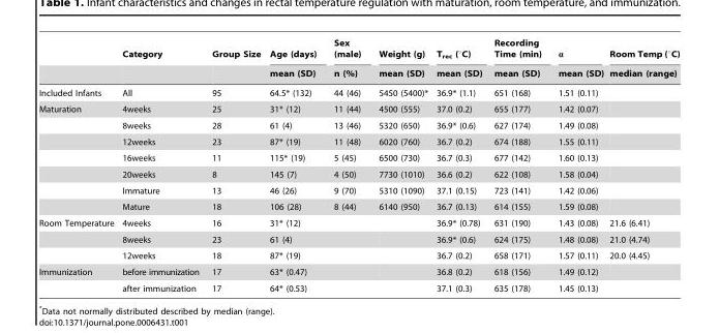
<table><thead><tr><td rowspan="2"></td><td rowspan="2">Category</td><td rowspan="2">Group Size</td><td rowspan="2">Age (days) mean (SD)</td><td rowspan="2">Sex (male) n (%)</td><td rowspan="2">Weight (g) mean (SD)</td><td rowspan="2">T<sub>rec</sub> (°C) mean (SD)</td><td rowspan="2">Recording Time (min) mean (SD)</td><td rowspan="2">α mean (SD)</td><td rowspan="2">Room Temp (°C) median (range)</td></tr><tr></tr></thead><tbody><tr><td>Included Infants</td><td>All</td><td>95</td><td>64.5* (132)</td><td>44 (46)</td><td>5450 (5400)*</td><td>36.9* (1.1)</td><td>651 (168)</td><td>1.51 (0.11)</td><td></td></tr><tr><td rowspan="7">Maturation</td><td>4weeks</td><td>25</td><td>31* (12)</td><td>11 (44)</td><td>4500 (555)</td><td>37.0 (0.2)</td><td>655 (177)</td><td>1.42 (0.07)</td><td></td></tr><tr><td>8weeks</td><td>28</td><td>61 (4)</td><td>13 (46)</td><td>5320 (650)</td><td>36.9* (0.6)</td><td>627 (174)</td><td>1.49 (0.08)</td><td></td></tr><tr><td>12weeks</td><td>23</td><td>87* (19)</td><td>11 (48)</td><td>6020 (760)</td><td>36.7 (0.2)</td><td>674 (188)</td><td>1.55 (0.11)</td><td></td></tr><tr><td>16weeks</td><td>11</td><td>115* (19)</td><td>5 (45)</td><td>6500 (730)</td><td>36.7 (0.3)</td><td>677 (142)</td><td>1.60 (0.13)</td><td></td></tr><tr><td>20weeks</td><td>8</td><td>145 (7)</td><td>4 (50)</td><td>7730 (1010)</td><td>36.6 (0.2)</td><td>622 (108)</td><td>1.58 (0.04)</td><td></td></tr><tr><td>Immature</td><td>13</td><td>46 (26)</td><td>9 (70)</td><td>5310 (1090)</td><td>37.1 (0.15)</td><td>723 (141)</td><td>1.42 (0.06)</td><td></td></tr><tr><td>Mature</td><td>18</td><td>106 (28)</td><td>8 (44)</td><td>6140 (950)</td><td>36.7 (0.13)</td><td>614 (155)</td><td>1.59 (0.08)</td><td></td></tr><tr><td rowspan="3">Room Temperature</td><td>4weeks</td><td>16</td><td>31* (12)</td><td></td><td></td><td>36.9* (0.78)</td><td>631 (190)</td><td>1.43 (0.08)</td><td>21.6 (6.41)</td></tr><tr><td>8weeks</td><td>23</td><td>61 (4)</td><td></td><td></td><td>36.9* (0.6)</td><td>624 (175)</td><td>1.48 (0.08)</td><td>21.0 (4.74)</td></tr><tr><td>12weeks</td><td>18</td><td>87* (19)</td><td></td><td></td><td>36.7 (0.2)</td><td>658 (171)</td><td>1.57 (0.11)</td><td>20.0 (4.45)</td></tr><tr><td rowspan="2">Immunization</td><td>before immunization</td><td>17</td><td>63* (0.47)</td><td></td><td></td><td>36.8 (0.2)</td><td>618 (156)</td><td>1.49 (0.12)</td><td></td></tr><tr><td>after immunization</td><td>17</td><td>64* (0.53)</td><td></td><td></td><td>37.1 (0.3)</td><td>635 (178)</td><td>1.45 (0.13)</td><td></td></tr></tbody></table>